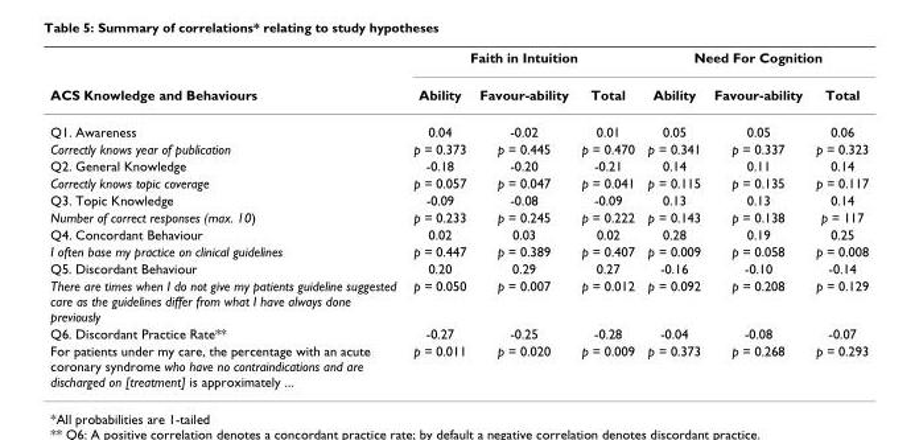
<table><thead><tr><td rowspan="2">ACS Knowledge and Behaviours</td><td colspan="3">Faith in Intuition</td><td colspan="3">Need For Cognition</td></tr><tr><td>Ability</td><td>Favour-ability</td><td>Total</td><td>Ability</td><td>Favour-ability</td><td>Total</td></tr></thead><tbody><tr><td>Q1. Awareness</td><td>0.04</td><td>-0.02</td><td>0.01</td><td>0.05</td><td>0.05</td><td>0.06</td></tr><tr><td>Correctly knows year of publication</td><td>p = 0.373</td><td>p = 0.445</td><td>p = 0.470</td><td>p = 0.341</td><td>p = 0.337</td><td>p = 0.323</td></tr><tr><td>Q2. General Knowledge</td><td>-0.18</td><td>-0.20</td><td>-0.21</td><td>0.14</td><td>0.11</td><td>0.14</td></tr><tr><td>Correctly knows topic coverage</td><td>p = 0.057</td><td>p = 0.047</td><td>p = 0.041</td><td>p = 0.115</td><td>p = 0.135</td><td>p = 0.117</td></tr><tr><td>Q3. Topic Knowledge</td><td>-0.09</td><td>-0.08</td><td>-0.09</td><td>0.13</td><td>0.13</td><td>0.14</td></tr><tr><td>Number of correct responses (max. 10)</td><td>p = 0.233</td><td>p = 0.245</td><td>p = 0.222</td><td>p = 0.143</td><td>p = 0.138</td><td>p = 117</td></tr><tr><td>Q4. Concordant Behaviour</td><td>0.02</td><td>0.03</td><td>0.02</td><td>0.28</td><td>0.19</td><td>0.25</td></tr><tr><td>I often base my practice on clinical guidelines</td><td>p = 0.447</td><td>p = 0.389</td><td>p = 0.407</td><td>p = 0.009</td><td>p = 0.058</td><td>p = 0.008</td></tr><tr><td>Q5. Discordant Behaviour</td><td>0.20</td><td>0.29</td><td>0.27</td><td>-0.16</td><td>-0.10</td><td>-0.14</td></tr><tr><td>There are times when I do not give my patients guideline suggested care as the guidelines differ from what I have always done previously</td><td>p = 0.050</td><td>p = 0.007</td><td>p = 0.012</td><td>p = 0.092</td><td>p = 0.208</td><td>p = 0.129</td></tr><tr><td>Q6. Discordant Practice Rate**</td><td>-0.27</td><td>-0.25</td><td>-0.28</td><td>-0.04</td><td>-0.08</td><td>-0.07</td></tr><tr><td>For patients under my care, the percentage with an acute coronary syndrome who have no contraindications and are discharged on [treatment] is approximately ...</td><td>p = 0.011</td><td>p = 0.020</td><td>p = 0.009</td><td>p = 0.373</td><td>p = 0.268</td><td>p = 0.293</td></tr></tbody></table>